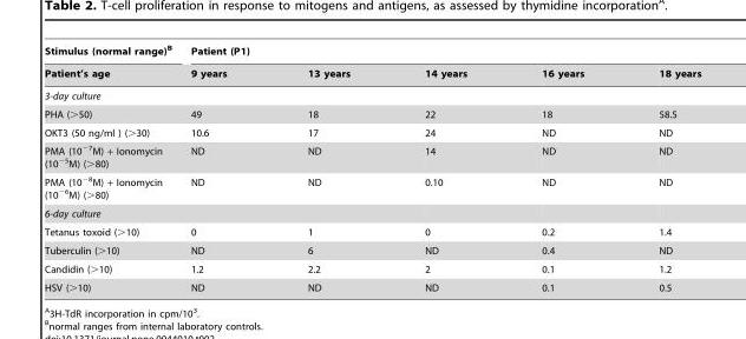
<table><thead><tr><td rowspan="2">Stimulus (normal range)<sup>B</sup> Patient’s age</td><td colspan="5">Patient (P1)</td></tr><tr><td>9 years</td><td>13 years</td><td>14 years</td><td>16 years</td><td>18 years</td></tr></thead><tbody><tr><td colspan="6">3-day culture</td></tr><tr><td>PHA (&gt;50)</td><td>49</td><td>18</td><td>22</td><td>18</td><td>58.5</td></tr><tr><td>OKT3 (50 ng/ml ) (&gt;30)</td><td>10.6</td><td>17</td><td>24</td><td>ND</td><td>ND</td></tr><tr><td>PMA (10<sup>−7</sup>M) + Ionomycin (10<sup>−5</sup>M) (&gt;80)</td><td>ND</td><td>ND</td><td>14</td><td>ND</td><td>ND</td></tr><tr><td>PMA (10<sup>−8</sup>M) + Ionomycin (10<sup>−6</sup>M) (&gt;80)</td><td>ND</td><td>ND</td><td>0.10</td><td>ND</td><td>ND</td></tr><tr><td colspan="6">6-day culture</td></tr><tr><td>Tetanus toxoid (&gt;10)</td><td>0</td><td>1</td><td>0</td><td>0.2</td><td>1.4</td></tr><tr><td>Tuberculin (&gt;10)</td><td>ND</td><td>6</td><td>ND</td><td>0.4</td><td>ND</td></tr><tr><td>Candidin (&gt;10)</td><td>1.2</td><td>2.2</td><td>2</td><td>0.1</td><td>1.2</td></tr><tr><td>HSV (&gt;10)</td><td>ND</td><td>ND</td><td>ND</td><td>0.1</td><td>0.5</td></tr></tbody></table>